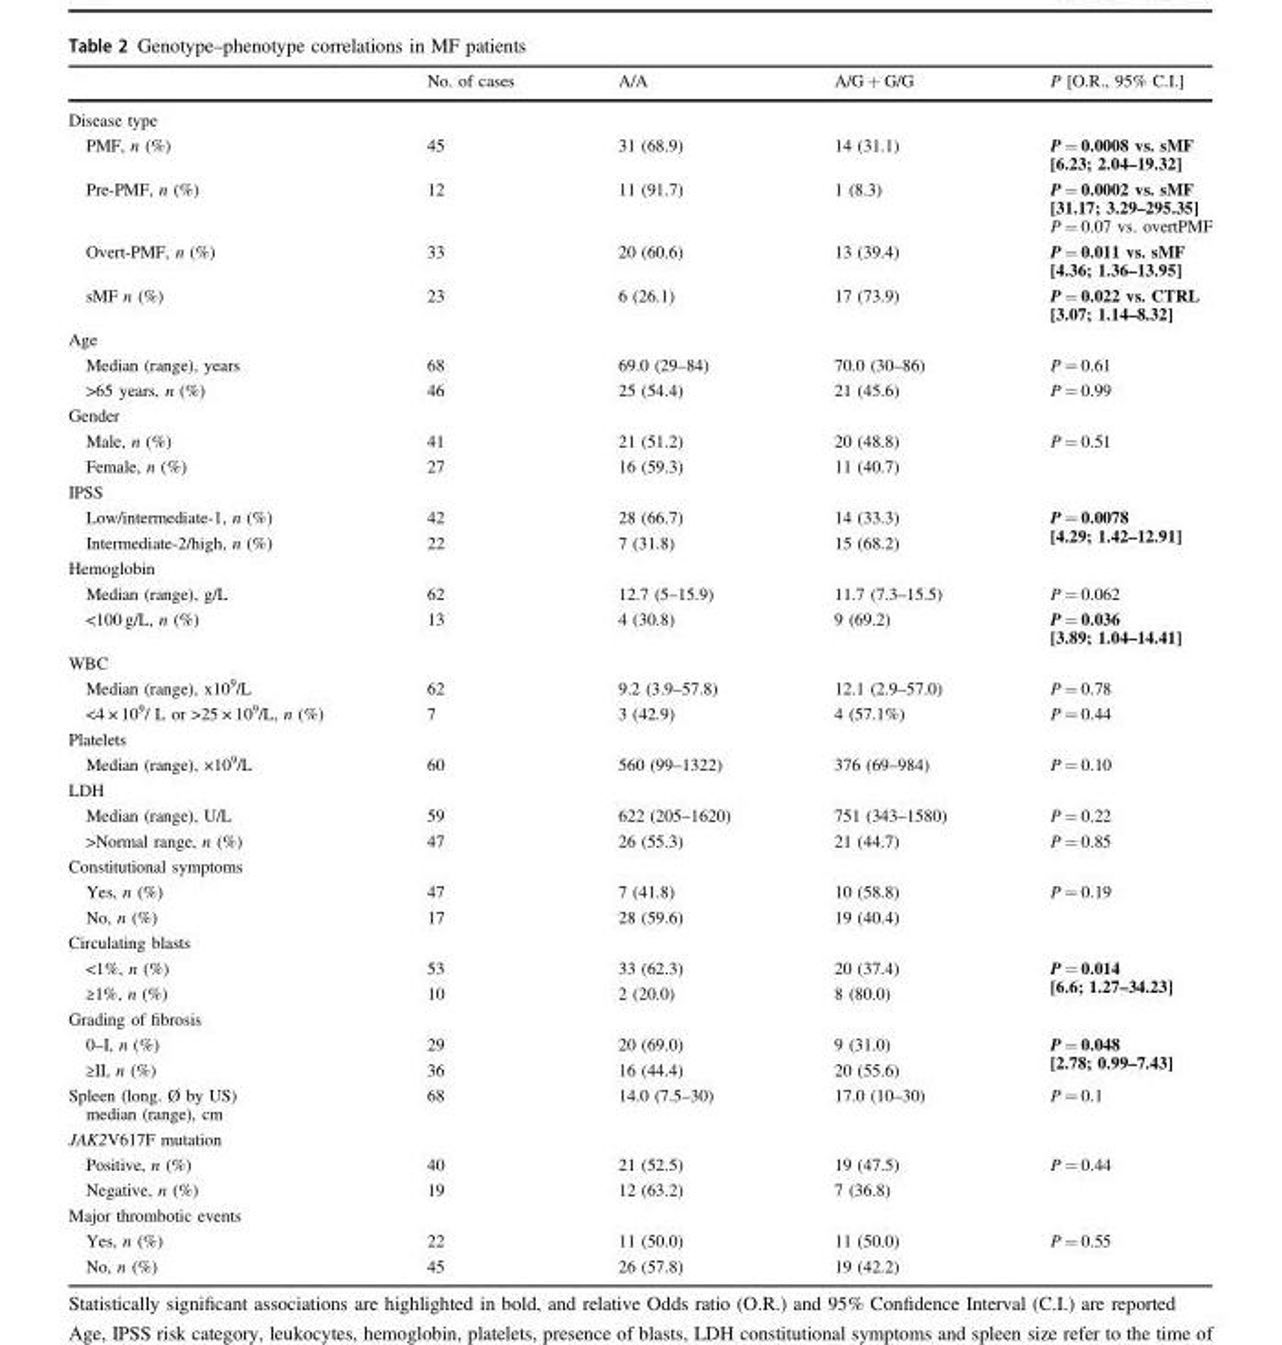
<table><thead><tr><td></td><td>No. of cases</td><td>A/A</td><td>A/G + G/G</td><td>P [O.R., 95% C.I.]</td></tr></thead><tbody><tr><td colspan="5">Disease type</td></tr><tr><td>PMF, n (%)</td><td>45</td><td>31 (68.9)</td><td>14 (31.1)</td><td>P = 0.0008 vs. sMF [6.23; 2.04–19.32]</td></tr><tr><td>Pre-PMF, n (%)</td><td>12</td><td>11 (91.7)</td><td>1 (8.3)</td><td>P = 0.0002 vs. sMF [31.17; 3.29–295.35] P = 0.07 vs. overtPMF</td></tr><tr><td>Overt-PMF, n (%)</td><td>33</td><td>20 (60.6)</td><td>13 (39.4)</td><td>P = 0.011 vs. sMF [4.36; 1.36–13.95]</td></tr><tr><td>sMF n (%)</td><td>23</td><td>6 (26.1)</td><td>17 (73.9)</td><td>P = 0.022 vs. CTRL [3.07; 1.14–8.32]</td></tr><tr><td colspan="5">Age</td></tr><tr><td>Median (range), years</td><td>68</td><td>69.0 (29–84)</td><td>70.0 (30–86)</td><td>P = 0.61</td></tr><tr><td>&gt;65 years, n (%)</td><td>46</td><td>25 (54.4)</td><td>21 (45.6)</td><td>P = 0.99</td></tr><tr><td colspan="5">Gender</td></tr><tr><td>Male, n (%)</td><td>41</td><td>21 (51.2)</td><td>20 (48.8)</td><td rowspan="2">P = 0.51</td></tr><tr><td>Female, n (%)</td><td>27</td><td>16 (59.3)</td><td>11 (40.7)</td></tr><tr><td colspan="5">IPSS</td></tr><tr><td>Low/intermediate-1, n (%)</td><td>42</td><td>28 (66.7)</td><td>14 (33.3)</td><td rowspan="2">P = 0.0078 [4.29; 1.42–12.91]</td></tr><tr><td>Intermediate-2/high, n (%)</td><td>22</td><td>7 (31.8)</td><td>15 (68.2)</td></tr><tr><td colspan="5">Hemoglobin</td></tr><tr><td>Median (range), g/L</td><td>62</td><td>12.7 (5–15.9)</td><td>11.7 (7.3–15.5)</td><td>P = 0.062</td></tr><tr><td>&lt;100 g/L, n (%)</td><td>13</td><td>4 (30.8)</td><td>9 (69.2)</td><td>P = 0.036 [3.89; 1.04–14.41]</td></tr><tr><td colspan="5">WBC</td></tr><tr><td>Median (range), x10<sup>9</sup>/L</td><td>62</td><td>9.2 (3.9–57.8)</td><td>12.1 (2.9–57.0)</td><td>P = 0.78</td></tr><tr><td>&lt;4 × 10<sup>9</sup>/ L or &gt;25 × 10<sup>9</sup>/L, n (%)</td><td>7</td><td>3 (42.9)</td><td>4 (57.1%)</td><td>P = 0.44</td></tr><tr><td colspan="5">Platelets</td></tr><tr><td>Median (range), ×10<sup>9</sup>/L</td><td>60</td><td>560 (99–1322)</td><td>376 (69–984)</td><td>P = 0.10</td></tr><tr><td colspan="5">LDH</td></tr><tr><td>Median (range), U/L</td><td>59</td><td>622 (205–1620)</td><td>751 (343–1580)</td><td>P = 0.22</td></tr><tr><td>&gt;Normal range, n (%)</td><td>47</td><td>26 (55.3)</td><td>21 (44.7)</td><td>P = 0.85</td></tr><tr><td colspan="5">Constitutional symptoms</td></tr><tr><td>Yes, n (%)</td><td>47</td><td>7 (41.8)</td><td>10 (58.8)</td><td rowspan="2">P = 0.19</td></tr><tr><td>No, n (%)</td><td>17</td><td>28 (59.6)</td><td>19 (40.4)</td></tr><tr><td colspan="5">Circulating blasts</td></tr><tr><td>&lt;1%, n (%)</td><td>53</td><td>33 (62.3)</td><td>20 (37.4)</td><td rowspan="2">P = 0.014 [6.6; 1.27–34.23]</td></tr><tr><td>≥1%, n (%)</td><td>10</td><td>2 (20.0)</td><td>8 (80.0)</td></tr><tr><td colspan="5">Grading of fibrosis</td></tr><tr><td>0–I, n (%)</td><td>29</td><td>20 (69.0)</td><td>9 (31.0)</td><td rowspan="2">P = 0.048 [2.78; 0.99–7.43]</td></tr><tr><td>≥II, n (%)</td><td>36</td><td>16 (44.4)</td><td>20 (55.6)</td></tr><tr><td>Spleen (long. Ø by US) median (range), cm</td><td>68</td><td>14.0 (7.5–30)</td><td>17.0 (10–30)</td><td>P = 0.1</td></tr><tr><td colspan="5">JAK2V617F mutation</td></tr><tr><td>Positive, n (%)</td><td>40</td><td>21 (52.5)</td><td>19 (47.5)</td><td rowspan="2">P = 0.44</td></tr><tr><td>Negative, n (%)</td><td>19</td><td>12 (63.2)</td><td>7 (36.8)</td></tr><tr><td colspan="5">Major thrombotic events</td></tr><tr><td>Yes, n (%)</td><td>22</td><td>11 (50.0)</td><td>11 (50.0)</td><td rowspan="2">P = 0.55</td></tr><tr><td>No, n (%)</td><td>45</td><td>26 (57.8)</td><td>19 (42.2)</td></tr></tbody></table>